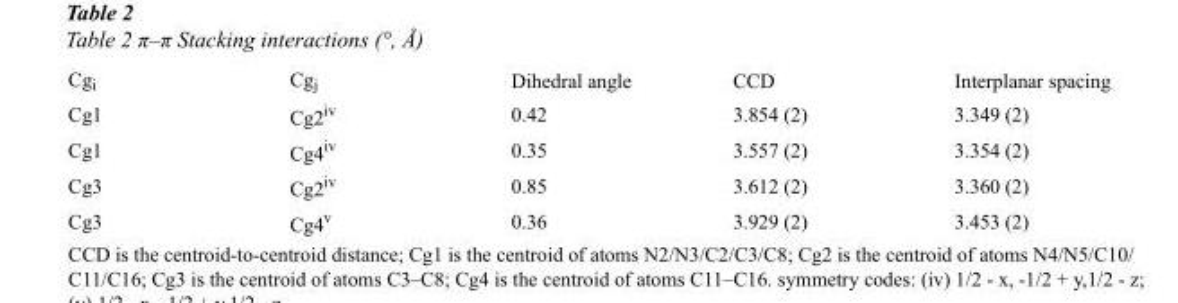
<table><thead><tr><td>Cg<sub>i</sub></td><td>Cg<sub>j</sub></td><td>Dihedral angle</td><td>CCD</td><td>Interplanar spacing</td></tr></thead><tbody><tr><td>Cg1</td><td>Cg2<sup>iv</sup></td><td>0.42</td><td>3.854 (2)</td><td>3.349 (2)</td></tr><tr><td>Cg1</td><td>Cg4<sup>iv</sup></td><td>0.35</td><td>3.557 (2)</td><td>3.354 (2)</td></tr><tr><td>Cg3</td><td>Cg2<sup>iv</sup></td><td>0.85</td><td>3.612 (2)</td><td>3.360 (2)</td></tr><tr><td>Cg3</td><td>Cg4<sup>v</sup></td><td>0.36</td><td>3.929 (2)</td><td>3.453 (2)</td></tr></tbody></table>